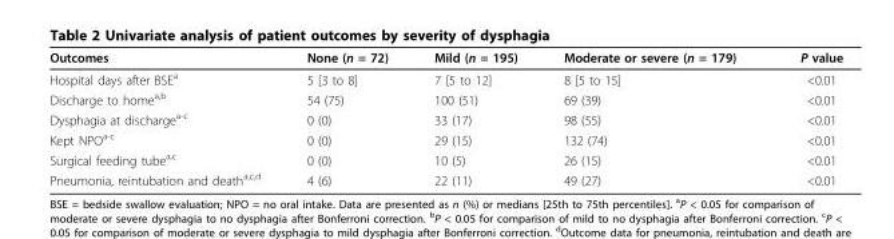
<table><thead><tr><td>Outcomes</td><td>None (n = 72)</td><td>Mild (n = 195)</td><td>Moderate or severe (n = 179)</td><td>P value</td></tr></thead><tbody><tr><td>Hospital days after BSE<sup>a</sup></td><td>5 [3 to 8]</td><td>7 [5 to 12]</td><td>8 [5 to 15]</td><td>&lt;0.01</td></tr><tr><td>Discharge to home<sup>a,b</sup></td><td>54 (75)</td><td>100 (51)</td><td>69 (39)</td><td>&lt;0.01</td></tr><tr><td>Dysphagia at discharge<sup>a-c</sup></td><td>0 (0)</td><td>33 (17)</td><td>98 (55)</td><td>&lt;0.01</td></tr><tr><td>Kept NPO<sup>a-c</sup></td><td>0 (0)</td><td>29 (15)</td><td>132 (74)</td><td>&lt;0.01</td></tr><tr><td>Surgical feeding tube<sup>a,c</sup></td><td>0 (0)</td><td>10 (5)</td><td>26 (15)</td><td>&lt;0.01</td></tr><tr><td>Pneumonia, reintubation and death<sup>a,c,d</sup></td><td>4 (6)</td><td>22 (11)</td><td>49 (27)</td><td>&lt;0.01</td></tr></tbody></table>